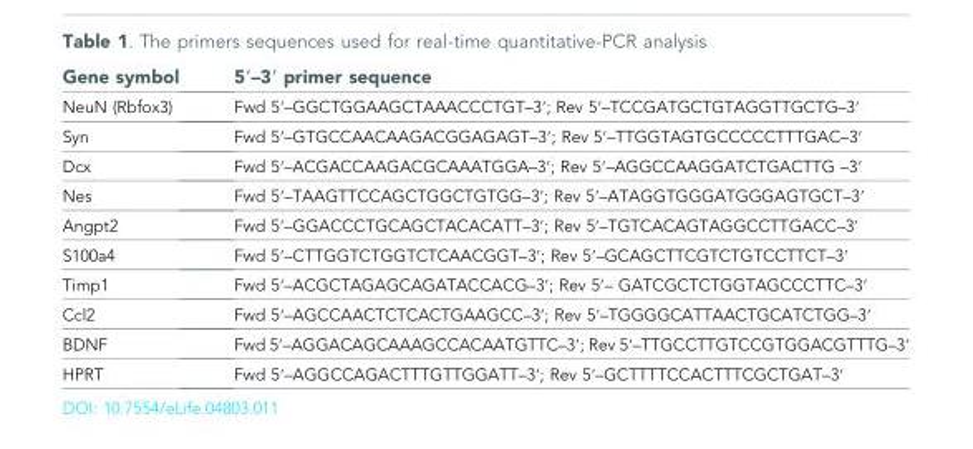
<table><thead><tr><td>Gene symbol</td><td>5′–3′ primer sequence</td></tr></thead><tbody><tr><td>NeuN (Rbfox3)</td><td>Fwd 5′–GGCTGGAAGCTAAACCCTGT–3′; Rev 5′–TCCGATGCTGTAGGTTGCTG–3′</td></tr><tr><td>Syn</td><td>Fwd 5′–GTGCCAACAAGACGGAGAGT–3′; Rev 5′–TTGGTAGTGCCCCCTTTGAC–3′</td></tr><tr><td>Dcx</td><td>Fwd 5′–ACGACCAAGACGCAAATGGA–3′; Rev 5′–AGGCCAAGGATCTGACTTG –3′</td></tr><tr><td>Nes</td><td>Fwd 5′–TAAGTTCCAGCTGGCTGTGG–3′; Rev 5′–ATAGGTGGGATGGGAGTGCT–3′</td></tr><tr><td>Angpt2</td><td>Fwd 5′–GGACCCTGCAGCTACACATT–3′; Rev 5′–TGTCACAGTAGGCCTTGACC–3′</td></tr><tr><td>S100a4</td><td>Fwd 5′–CTTGGTCTGGTCTCAACGGT–3′; Rev 5′–GCAGCTTCGTCTGTCCTTCT–3′</td></tr><tr><td>Timp1</td><td>Fwd 5′–ACGCTAGAGCAGATACCACG–3′; Rev 5′– GATCGCTCTGGTAGCCCTTC–3′</td></tr><tr><td>Ccl2</td><td>Fwd 5′–AGCCAACTCTCACTGAAGCC–3′; Rev 5′–TGGGGCATTAACTGCATCTGG–3′</td></tr><tr><td>BDNF</td><td>Fwd 5′–AGGACAGCAAAGCCACAATGTTC–3′; Rev 5′–TTGCCTTGTCCGTGGACGTTTG–3′</td></tr><tr><td>HPRT</td><td>Fwd 5′–AGGCCAGACTTTGTTGGATT–3′; Rev 5′–GCTTTTCCACTTTCGCTGAT–3′</td></tr></tbody></table>